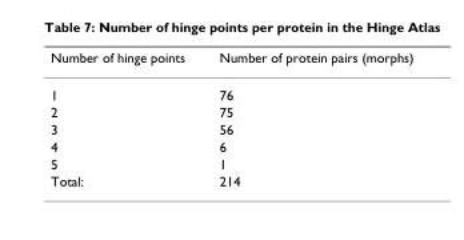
<table><thead><tr><td>Number of hinge points</td><td>Number of protein pairs (morphs)</td></tr></thead><tbody><tr><td>1</td><td>76</td></tr><tr><td>2</td><td>75</td></tr><tr><td>3</td><td>56</td></tr><tr><td>4</td><td>6</td></tr><tr><td>5</td><td>1</td></tr><tr><td>Total:</td><td>214</td></tr></tbody></table>